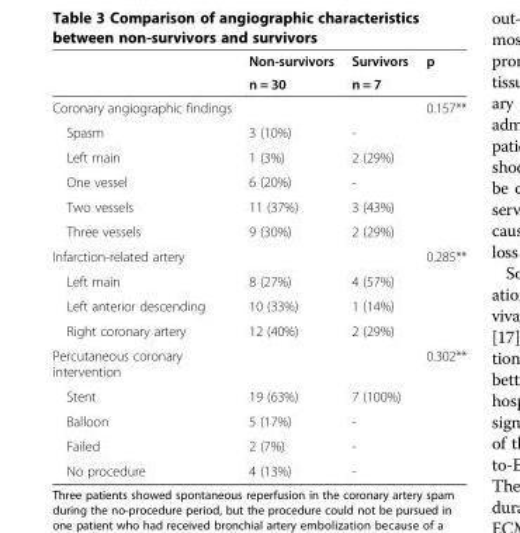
<table><thead><tr><td rowspan="2"></td><td rowspan="2">Non-survivors n = 30</td><td rowspan="2">Survivors n = 7</td><td rowspan="2">p</td></tr><tr></tr></thead><tbody><tr><td colspan="3">Coronary angiographic findings</td><td rowspan="6">0.157**</td></tr><tr><td>Spasm</td><td>3 (10%)</td><td>-</td></tr><tr><td>Left main</td><td>1 (3%)</td><td>2 (29%)</td></tr><tr><td>One vessel</td><td>6 (20%)</td><td>-</td></tr><tr><td>Two vessels</td><td>11 (37%)</td><td>3 (43%)</td></tr><tr><td>Three vessels</td><td>9 (30%)</td><td>2 (29%)</td></tr><tr><td colspan="3">Infarction-related artery</td><td rowspan="4">0.285**</td></tr><tr><td>Left main</td><td>8 (27%)</td><td>4 (57%)</td></tr><tr><td>Left anterior descending</td><td>10 (33%)</td><td>1 (14%)</td></tr><tr><td>Right coronary artery</td><td>12 (40%)</td><td>2 (29%)</td></tr><tr><td colspan="3">Percutaneous coronary intervention</td><td rowspan="5">0.302**</td></tr><tr><td>Stent</td><td>19 (63%)</td><td>7 (100%)</td></tr><tr><td>Balloon</td><td>5 (17%)</td><td>-</td></tr><tr><td>Failed</td><td>2 (7%)</td><td>-</td></tr><tr><td>No procedure</td><td>4 (13%)</td><td>-</td></tr></tbody></table>